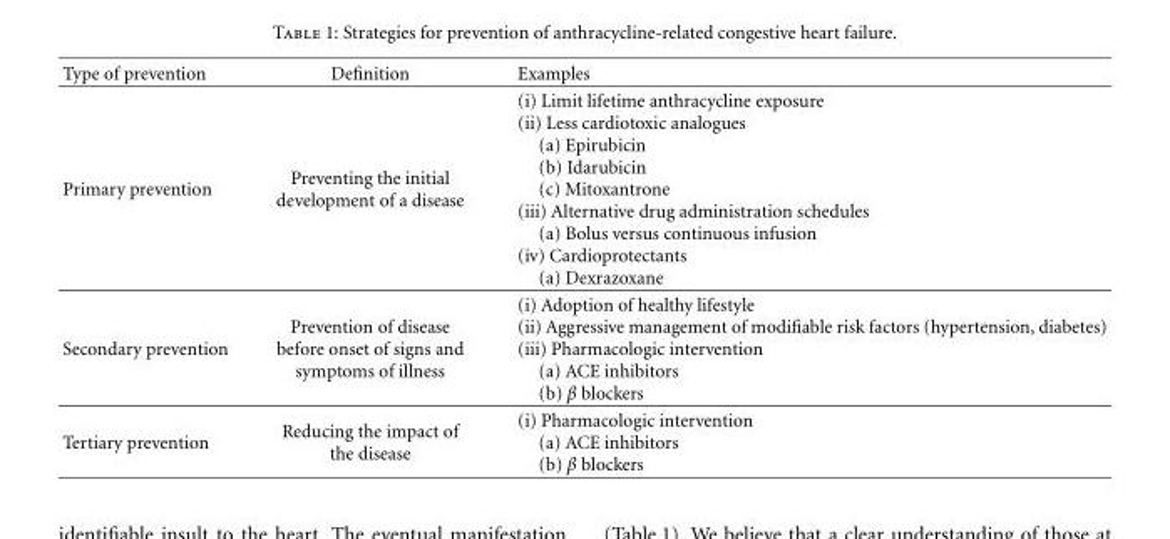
<table><thead><tr><td>Type of prevention</td><td>Definition</td><td>Examples</td></tr></thead><tbody><tr><td>Primary prevention</td><td>Preventing the initial development of a disease</td><td>(i) Limit lifetime anthracycline exposure (ii) Less cardiotoxic analogues (a) Epirubicin (b) Idarubicin (c) Mitoxantrone (iii) Alternative drug administration schedules (a) Bolus versus continuous infusion (iv) Cardioprotectants (a) Dexrazoxane</td></tr><tr><td>Secondary prevention</td><td>Prevention of disease before onset of signs and symptoms of illness</td><td>(i) Adoption of healthy lifestyle (ii) Aggressive management of modifiable risk factors (hypertension, diabetes) (iii) Pharmacologic intervention (a) ACE inhibitors (b) β blockers</td></tr><tr><td>Tertiary prevention</td><td>Reducing the impact of the disease</td><td>(i) Pharmacologic intervention (a) ACE inhibitors (b) β blockers</td></tr></tbody></table>